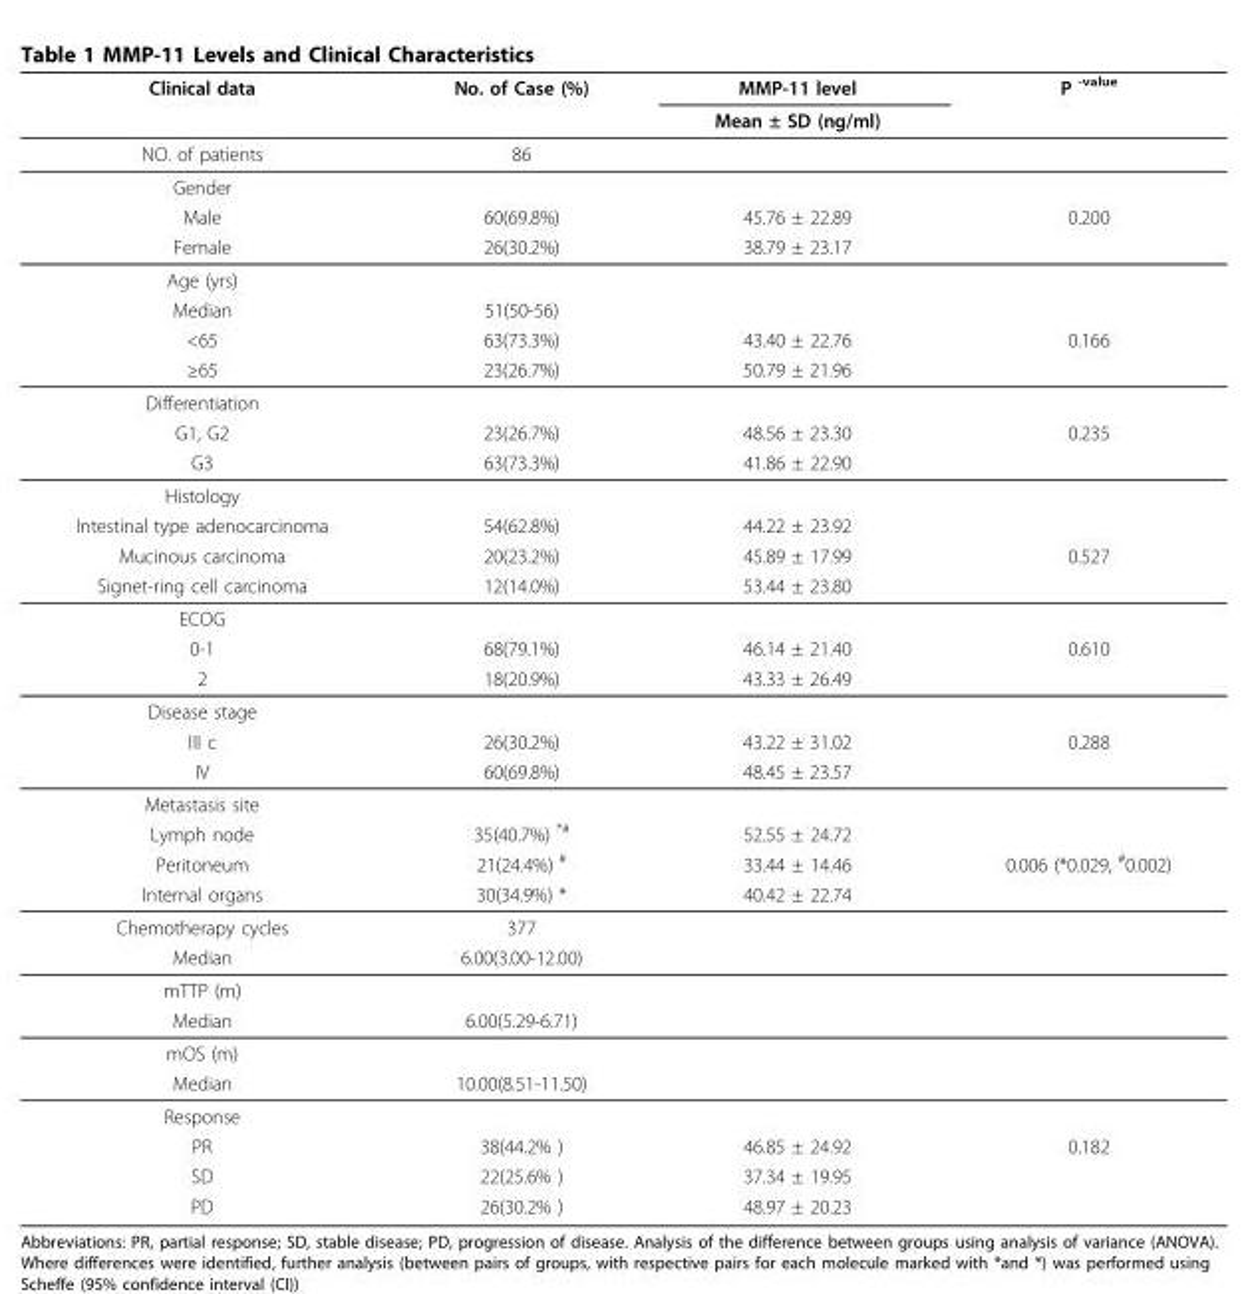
<table><thead><tr><td rowspan="2">Clinical data</td><td rowspan="2">No. of Case (%)</td><td rowspan="2">MMP-11 level Mean ± SD (ng/ml)</td><td rowspan="2">P -value</td></tr><tr></tr></thead><tbody><tr><td>NO. of patients</td><td>86</td><td></td><td></td></tr><tr><td colspan="4">Gender</td></tr><tr><td>Male</td><td>60(69.8%)</td><td>45.76 ± 22.89</td><td>0.200</td></tr><tr><td>Female</td><td>26(30.2%)</td><td>38.79 ± 23.17</td><td></td></tr><tr><td colspan="4">Age (yrs)</td></tr><tr><td>Median</td><td>51(50-56)</td><td></td><td></td></tr><tr><td>&lt;65</td><td>63(73.3%)</td><td>43.40 ± 22.76</td><td>0.166</td></tr><tr><td>≥65</td><td>23(26.7%)</td><td>50.79 ± 21.96</td><td></td></tr><tr><td colspan="4">Differentiation</td></tr><tr><td>G1, G2</td><td>23(26.7%)</td><td>48.56 ± 23.30</td><td>0.235</td></tr><tr><td>G3</td><td>63(73.3%)</td><td>41.86 ± 22.90</td><td></td></tr><tr><td colspan="4">Histology</td></tr><tr><td>Intestinal type adenocarcinoma</td><td>54(62.8%)</td><td>44.22 ± 23.92</td><td></td></tr><tr><td>Mucinous carcinoma</td><td>20(23.2%)</td><td>45.89 ± 17.99</td><td>0.527</td></tr><tr><td>Signet-ring cell carcinoma</td><td>12(14.0%)</td><td>53.44 ± 23.80</td><td></td></tr><tr><td colspan="4">ECOG</td></tr><tr><td>0-1</td><td>68(79.1%)</td><td>46.14 ± 21.40</td><td>0.610</td></tr><tr><td>2</td><td>18(20.9%)</td><td>43.33 ± 26.49</td><td></td></tr><tr><td colspan="4">Disease stage</td></tr><tr><td>III c</td><td>26(30.2%)</td><td>43.22 ± 31.02</td><td>0.288</td></tr><tr><td>IV</td><td>60(69.8%)</td><td>48.45 ± 23.57</td><td></td></tr><tr><td colspan="4">Metastasis site</td></tr><tr><td>Lymph node</td><td>35(40.7%) *#</td><td>52.55 ± 24.72</td><td></td></tr><tr><td>Peritoneum</td><td>21(24.4%) #</td><td>33.44 ± 14.46</td><td>0.006 (*0.029, #0.002)</td></tr><tr><td>Internal organs</td><td>30(34.9%) *</td><td>40.42 ± 22.74</td><td></td></tr><tr><td>Chemotherapy cycles</td><td>377</td><td></td><td></td></tr><tr><td>Median</td><td>6.00(3.00-12.00)</td><td></td><td></td></tr><tr><td colspan="4">mTTP (m)</td></tr><tr><td>Median</td><td>6.00(5.29-6.71)</td><td></td><td></td></tr><tr><td colspan="4">mOS (m)</td></tr><tr><td>Median</td><td>10.00(8.51-11.50)</td><td></td><td></td></tr><tr><td colspan="4">Response</td></tr><tr><td>PR</td><td>38(44.2% )</td><td>46.85 ± 24.92</td><td>0.182</td></tr><tr><td>SD</td><td>22(25.6% )</td><td>37.34 ± 19.95</td><td></td></tr><tr><td>PD</td><td>26(30.2% )</td><td>48.97 ± 20.23</td><td></td></tr></tbody></table>